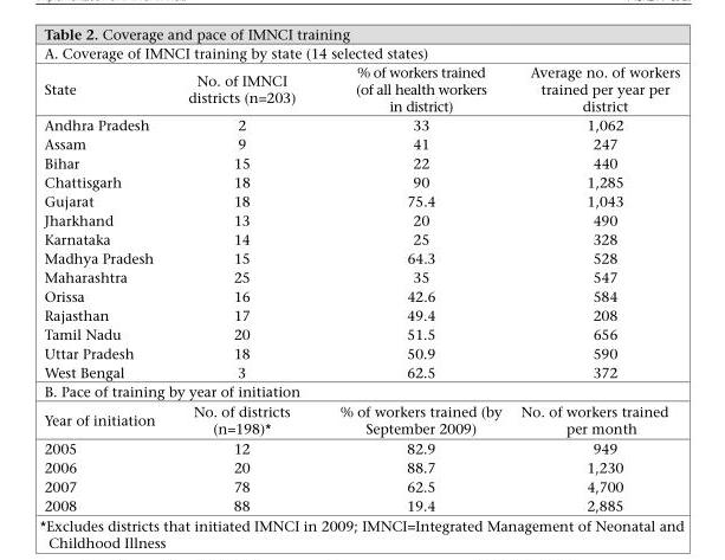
<table><thead><tr><td colspan="4">A. Coverage of IMNCI training by state (14 selected states)</td></tr><tr><td>State</td><td>No. of IMNCI districts (n=203)</td><td>% of workers trained (of all health workers in district)</td><td>Average no. of workers trained per year per district</td></tr></thead><tbody><tr><td>Andhra Pradesh</td><td>2</td><td>33</td><td>1,062</td></tr><tr><td>Assam</td><td>9</td><td>41</td><td>247</td></tr><tr><td>Bihar</td><td>15</td><td>22</td><td>440</td></tr><tr><td>Chattisgarh</td><td>18</td><td>90</td><td>1,285</td></tr><tr><td>Gujarat</td><td>18</td><td>75.4</td><td>1,043</td></tr><tr><td>Jharkhand</td><td>13</td><td>20</td><td>490</td></tr><tr><td>Karnataka</td><td>14</td><td>25</td><td>328</td></tr><tr><td>Madhya Pradesh</td><td>15</td><td>64.3</td><td>528</td></tr><tr><td>Maharashtra</td><td>25</td><td>35</td><td>547</td></tr><tr><td>Orissa</td><td>16</td><td>42.6</td><td>584</td></tr><tr><td>Rajasthan</td><td>17</td><td>49.4</td><td>208</td></tr><tr><td>Tamil Nadu</td><td>20</td><td>51.5</td><td>656</td></tr><tr><td>Uttar Pradesh</td><td>18</td><td>50.9</td><td>590</td></tr><tr><td>West Bengal</td><td>3</td><td>62.5</td><td>372</td></tr><tr><td colspan="4">B. Pace of training by year of initiation</td></tr><tr><td>Year of initiation</td><td>No. of districts (n=198)*</td><td>% of workers trained (by September 2009)</td><td>No. of workers trained per month</td></tr><tr><td>2005</td><td>12</td><td>82.9</td><td>949</td></tr><tr><td>2006</td><td>20</td><td>88.7</td><td>1,230</td></tr><tr><td>2007</td><td>78</td><td>62.5</td><td>4,700</td></tr><tr><td>2008</td><td>88</td><td>19.4</td><td>2,885</td></tr></tbody></table>